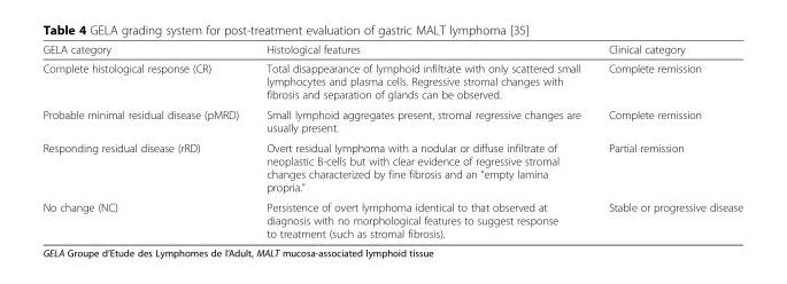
<table><thead><tr><td>GELA category</td><td>Histological features</td><td>Clinical category</td></tr></thead><tbody><tr><td>Complete histological response (CR)</td><td>Total disappearance of lymphoid infiltrate with only scattered small lymphocytes and plasma cells. Regressive stromal changes with fibrosis and separation of glands can be observed.</td><td>Complete remission</td></tr><tr><td>Probable minimal residual disease (pMRD)</td><td>Small lymphoid aggregates present, stromal regressive changes are usually present.</td><td>Complete remission</td></tr><tr><td>Responding residual disease (rRD)</td><td>Overt residual lymphoma with a nodular or diffuse infiltrate of neoplastic B-cells but with clear evidence of regressive stromal changes characterized by fine fibrosis and an “empty lamina propria.”</td><td>Partial remission</td></tr><tr><td>No change (NC)</td><td>Persistence of overt lymphoma identical to that observed at diagnosis with no morphological features to suggest response to treatment (such as stromal fibrosis).</td><td>Stable or progressive disease</td></tr></tbody></table>